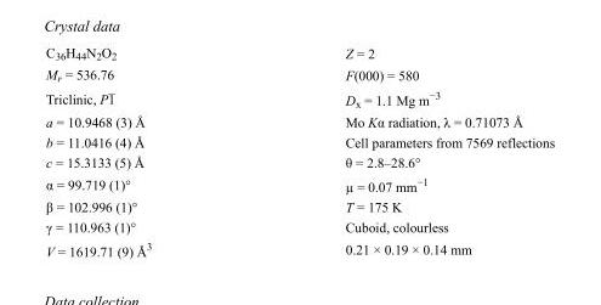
<table><tbody><tr><td>C<sub>36</sub>H<sub>44</sub>N<sub>2</sub>O<sub>2</sub></td><td>Z = 2</td></tr><tr><td>M<sub>r</sub> = 536.76</td><td>F(000) = 580</td></tr><tr><td>Triclinic, P1</td><td>D<sub>x</sub> = 1.1 Mg m<sup>−3</sup></td></tr><tr><td>a = 10.9468 (3) Å</td><td>Mo Kα radiation, λ = 0.71073 Å</td></tr><tr><td>b = 11.0416 (4) Å</td><td>Cell parameters from 7569 reflections</td></tr><tr><td>c = 15.3133 (5) Å</td><td>θ = 2.8–28.6°</td></tr><tr><td>α = 99.719 (1)°</td><td>µ = 0.07 mm<sup>−1</sup></td></tr><tr><td>β = 102.996 (1)°</td><td>T = 175 K</td></tr><tr><td>γ = 110.963 (1)°</td><td>Cuboid, colourless</td></tr><tr><td>V = 1619.71 (9) Å<sup>3</sup></td><td>0.21 × 0.19 × 0.14 mm</td></tr></tbody></table>